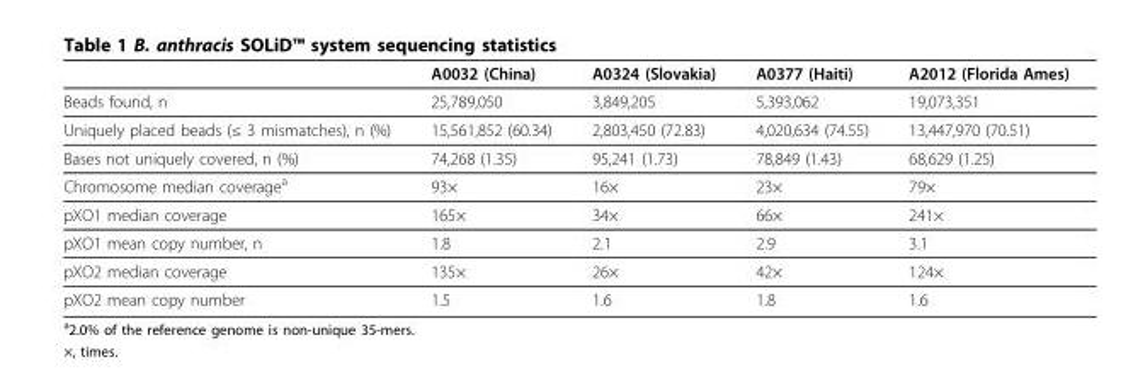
<table><thead><tr><td></td><td>A0032 (China)</td><td>A0324 (Slovakia)</td><td>A0377 (Haiti)</td><td>A2012 (Florida Ames)</td></tr></thead><tbody><tr><td>Beads found, n</td><td>25,789,050</td><td>3,849,205</td><td>5,393,062</td><td>19,073,351</td></tr><tr><td>Uniquely placed beads (≤ 3 mismatches), n (%)</td><td>15,561,852 (60.34)</td><td>2,803,450 (72.83)</td><td>4,020,634 (74.55)</td><td>13,447,970 (70.51)</td></tr><tr><td>Bases not uniquely covered, n (%)</td><td>74,268 (1.35)</td><td>95,241 (1.73)</td><td>78,849 (1.43)</td><td>68,629 (1.25)</td></tr><tr><td>Chromosome median coverage<sup>a</sup></td><td>93×</td><td>16×</td><td>23×</td><td>79×</td></tr><tr><td>pXO1 median coverage</td><td>165×</td><td>34×</td><td>66×</td><td>241×</td></tr><tr><td>pXO1 mean copy number, n</td><td>1.8</td><td>2.1</td><td>2.9</td><td>3.1</td></tr><tr><td>pXO2 median coverage</td><td>135×</td><td>26×</td><td>42×</td><td>124×</td></tr><tr><td>pXO2 mean copy number</td><td>1.5</td><td>1.6</td><td>1.8</td><td>1.6</td></tr></tbody></table>